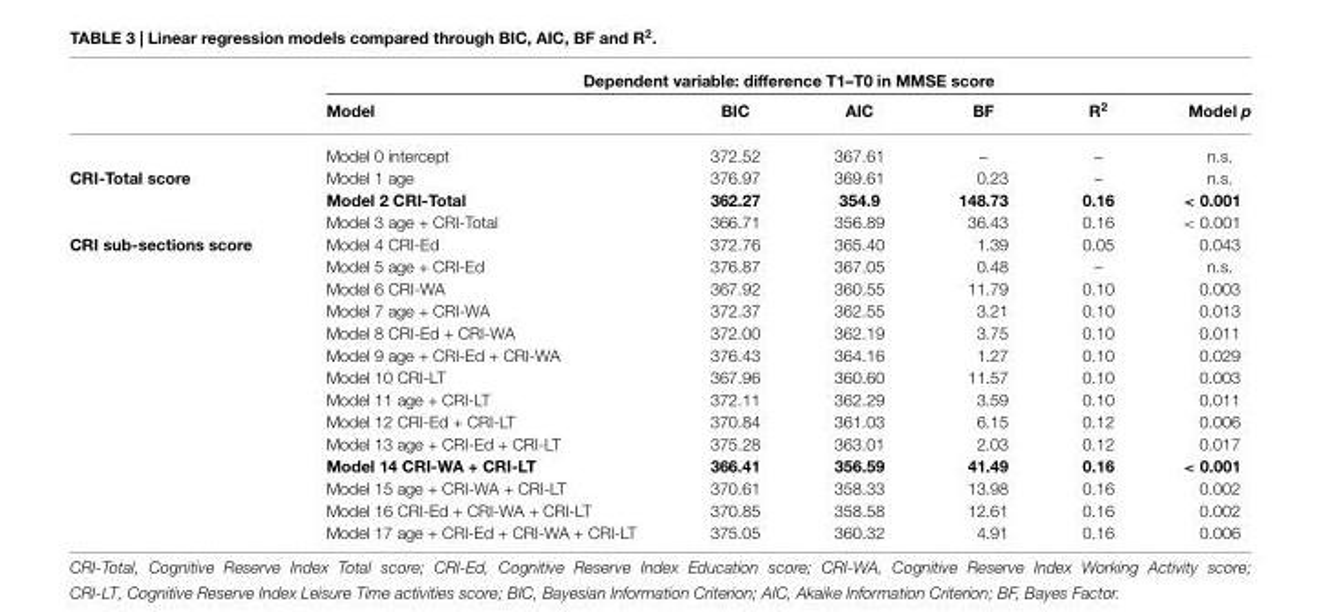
<table><thead><tr><td rowspan="2"></td><td colspan="6">Dependent variable: difference T1–T0 in MMSE score</td></tr><tr><td>Model</td><td>BIC</td><td>AIC</td><td>BF</td><td>R<sup>2</sup></td><td>Model p</td></tr></thead><tbody><tr><td></td><td>Model 0 intercept</td><td>372.52</td><td>367.61</td><td>–</td><td>–</td><td>n.s.</td></tr><tr><td rowspan="3">CRI-Total score</td><td>Model 1 age</td><td>376.97</td><td>369.61</td><td>0.23</td><td>–</td><td>n.s.</td></tr><tr><td>Model 2 CRI-Total</td><td>362.27</td><td>354.9</td><td>148.73</td><td>0.16</td><td>&lt; 0.001</td></tr><tr><td>Model 3 age + CRI-Total</td><td>366.71</td><td>356.89</td><td>36.43</td><td>0.16</td><td>&lt; 0.001</td></tr><tr><td rowspan="14">CRI sub-sections score</td><td>Model 4 CRI-Ed</td><td>372.76</td><td>365.40</td><td>1.39</td><td>0.05</td><td>0.043</td></tr><tr><td>Model 5 age + CRI-Ed</td><td>376.87</td><td>367.05</td><td>0.48</td><td>–</td><td>n.s.</td></tr><tr><td>Model 6 CRI-WA</td><td>367.92</td><td>360.55</td><td>11.79</td><td>0.10</td><td>0.003</td></tr><tr><td>Model 7 age + CRI-WA</td><td>372.37</td><td>362.55</td><td>3.21</td><td>0.10</td><td>0.013</td></tr><tr><td>Model 8 CRI-Ed + CRI-WA</td><td>372.00</td><td>362.19</td><td>3.75</td><td>0.10</td><td>0.011</td></tr><tr><td>Model 9 age + CRI-Ed + CRI-WA</td><td>376.43</td><td>364.16</td><td>1.27</td><td>0.10</td><td>0.029</td></tr><tr><td>Model 10 CRI-LT</td><td>367.96</td><td>360.60</td><td>11.57</td><td>0.10</td><td>0.003</td></tr><tr><td>Model 11 age + CRI-LT</td><td>372.11</td><td>362.29</td><td>3.59</td><td>0.10</td><td>0.011</td></tr><tr><td>Model 12 CRI-Ed + CRI-LT</td><td>370.84</td><td>361.03</td><td>6.15</td><td>0.12</td><td>0.006</td></tr><tr><td>Model 13 age + CRI-Ed + CRI-LT</td><td>375.28</td><td>363.01</td><td>2.03</td><td>0.12</td><td>0.017</td></tr><tr><td>Model 14 CRI-WA + CRI-LT</td><td>366.41</td><td>356.59</td><td>41.49</td><td>0.16</td><td>&lt; 0.001</td></tr><tr><td>Model 15 age + CRI-WA + CRI-LT</td><td>370.61</td><td>358.33</td><td>13.98</td><td>0.16</td><td>0.002</td></tr><tr><td>Model 16 CRI-Ed + CRI-WA + CRI-LT</td><td>370.85</td><td>358.58</td><td>12.61</td><td>0.16</td><td>0.002</td></tr><tr><td>Model 17 age + CRI-Ed + CRI-WA + CRI-LT</td><td>375.05</td><td>360.32</td><td>4.91</td><td>0.16</td><td>0.006</td></tr></tbody></table>